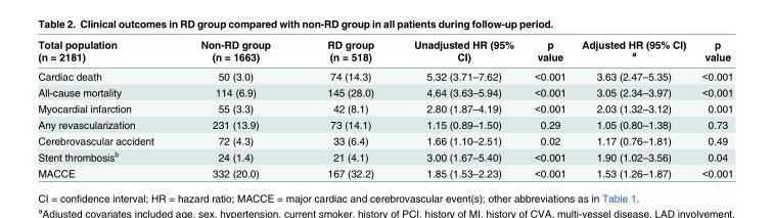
<table><thead><tr><td>Total population (n = 2181)</td><td>Non-RD group (n = 1663)</td><td>RD group (n = 518)</td><td>Unadjusted HR (95% CI)</td><td>p value</td><td>Adjusted HR (95% CI) <sup>a</sup></td><td>p value</td></tr></thead><tbody><tr><td>Cardiac death</td><td>50 (3.0)</td><td>74 (14.3)</td><td>5.32 (3.71–7.62)</td><td>&lt;0.001</td><td>3.63 (2.47–5.35)</td><td>&lt;0.001</td></tr><tr><td>All-cause mortality</td><td>114 (6.9)</td><td>145 (28.0)</td><td>4.64 (3.63–5.94)</td><td>&lt;0.001</td><td>3.05 (2.34–3.97)</td><td>&lt;0.001</td></tr><tr><td>Myocardial infarction</td><td>55 (3.3)</td><td>42 (8.1)</td><td>2.80 (1.87–4.19)</td><td>&lt;0.001</td><td>2.03 (1.32–3.12)</td><td>0.001</td></tr><tr><td>Any revascularization</td><td>231 (13.9)</td><td>73 (14.1)</td><td>1.15 (0.89–1.50)</td><td>0.29</td><td>1.05 (0.80–1.38)</td><td>0.73</td></tr><tr><td>Cerebrovascular accident</td><td>72 (4.3)</td><td>33 (6.4)</td><td>1.66 (1.10–2.51)</td><td>0.02</td><td>1.17 (0.76–1.81)</td><td>0.49</td></tr><tr><td>Stent thrombosis<sup>b</sup></td><td>24 (1.4)</td><td>21 (4.1)</td><td>3.00 (1.67–5.40)</td><td>&lt;0.001</td><td>1.90 (1.02–3.56)</td><td>0.04</td></tr><tr><td>MACCE</td><td>332 (20.0)</td><td>167 (32.2)</td><td>1.85 (1.53–2.23)</td><td>&lt;0.001</td><td>1.53 (1.26–1.87)</td><td>&lt;0.001</td></tr></tbody></table>